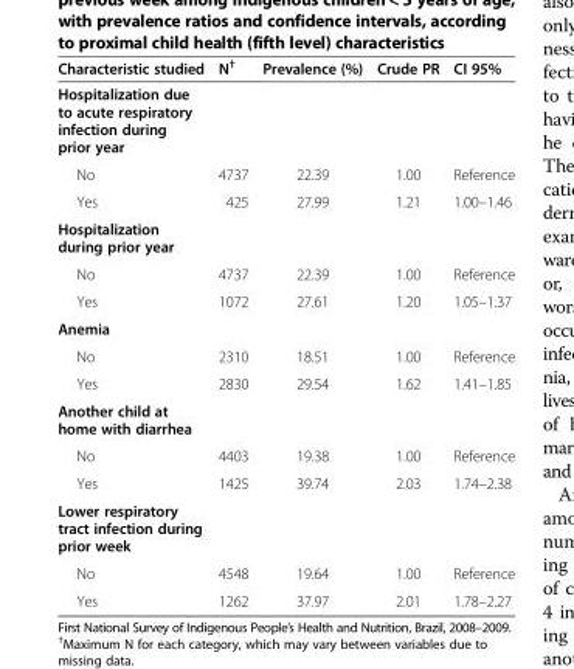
<table><thead><tr><td>Characteristic studied</td><td>N<sup>†</sup></td><td>Prevalence (%)</td><td>Crude PR</td><td>CI 95%</td></tr></thead><tbody><tr><td colspan="5">Hospitalization due to acute respiratory infection during prior year</td></tr><tr><td>No</td><td>4737</td><td>22.39</td><td>1.00</td><td>Reference</td></tr><tr><td>Yes</td><td>425</td><td>27.99</td><td>1.21</td><td>1.00–1.46</td></tr><tr><td colspan="5">Hospitalization during prior year</td></tr><tr><td>No</td><td>4737</td><td>22.39</td><td>1.00</td><td>Reference</td></tr><tr><td>Yes</td><td>1072</td><td>27.61</td><td>1.20</td><td>1.05–1.37</td></tr><tr><td colspan="5">Anemia</td></tr><tr><td>No</td><td>2310</td><td>18.51</td><td>1.00</td><td>Reference</td></tr><tr><td>Yes</td><td>2830</td><td>29.54</td><td>1.62</td><td>1.41–1.85</td></tr><tr><td colspan="5">Another child at home with diarrhea</td></tr><tr><td>No</td><td>4403</td><td>19.38</td><td>1.00</td><td>Reference</td></tr><tr><td>Yes</td><td>1425</td><td>39.74</td><td>2.03</td><td>1.74–2.38</td></tr><tr><td colspan="5">Lower respiratory tract infection during prior week</td></tr><tr><td>No</td><td>4548</td><td>19.64</td><td>1.00</td><td>Reference</td></tr><tr><td>Yes</td><td>1262</td><td>37.97</td><td>2.01</td><td>1.78–2.27</td></tr></tbody></table>